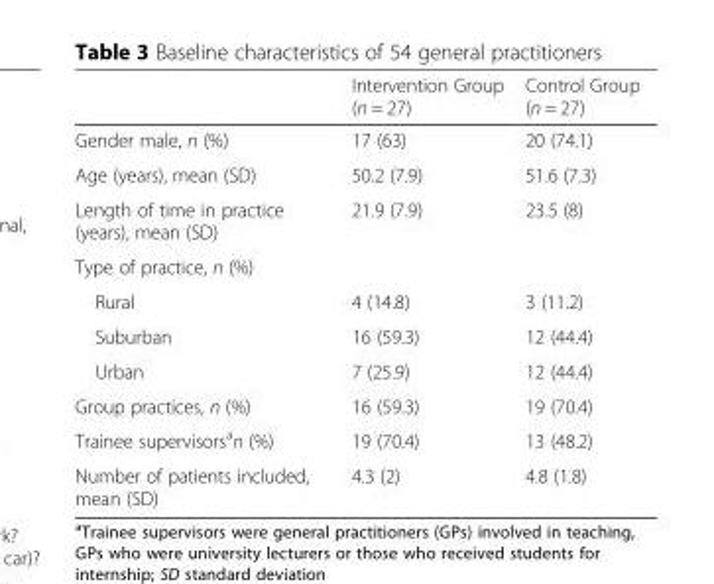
<table><thead><tr><td></td><td>Intervention Group (n = 27)</td><td>Control Group (n = 27)</td></tr></thead><tbody><tr><td>Gender male, n (%)</td><td>17 (63)</td><td>20 (74.1)</td></tr><tr><td>Age (years), mean (SD)</td><td>50.2 (7.9)</td><td>51.6 (7.3)</td></tr><tr><td>Length of time in practice (years), mean (SD)</td><td>21.9 (7.9)</td><td>23.5 (8)</td></tr><tr><td colspan="3">Type of practice, n (%)</td></tr><tr><td>Rural</td><td>4 (14.8)</td><td>3 (11.2)</td></tr><tr><td>Suburban</td><td>16 (59.3)</td><td>12 (44.4)</td></tr><tr><td>Urban</td><td>7 (25.9)</td><td>12 (44.4)</td></tr><tr><td>Group practices, n (%)</td><td>16 (59.3)</td><td>19 (70.4)</td></tr><tr><td>Trainee supervisors<sup>a</sup>n (%)</td><td>19 (70.4)</td><td>13 (48.2)</td></tr><tr><td>Number of patients included, mean (SD)</td><td>4.3 (2)</td><td>4.8 (1.8)</td></tr></tbody></table>